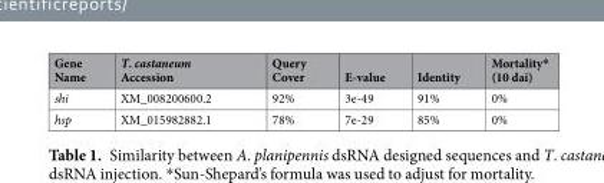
<table><thead><tr><td>Gene Name</td><td>T. castaneum Accession</td><td>Query Cover</td><td>E-value</td><td>Identity</td><td>Mortality* (10 dai)</td></tr></thead><tbody><tr><td>shi</td><td>XM_008200600.2</td><td>92%</td><td>3e-49</td><td>91%</td><td>0%</td></tr><tr><td>hsp</td><td>XM_015982882.1</td><td>78%</td><td>7e-29</td><td>85%</td><td>0%</td></tr></tbody></table>